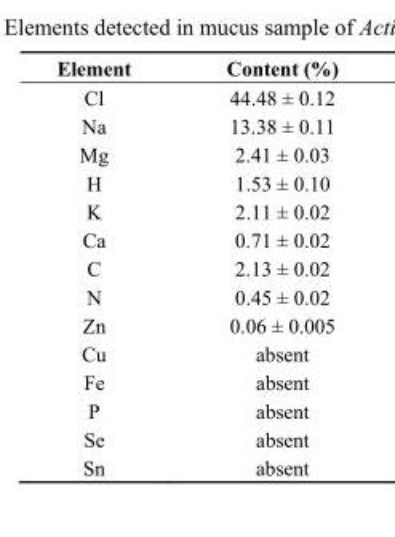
<table><thead><tr><td>Element</td><td>Content (%)</td></tr></thead><tbody><tr><td>Cl</td><td>44.48 ± 0.12</td></tr><tr><td>Na</td><td>13.38 ± 0.11</td></tr><tr><td>Mg</td><td>2.41 ± 0.03</td></tr><tr><td>H</td><td>1.53 ± 0.10</td></tr><tr><td>K</td><td>2.11 ± 0.02</td></tr><tr><td>Ca</td><td>0.71 ± 0.02</td></tr><tr><td>C</td><td>2.13 ± 0.02</td></tr><tr><td>N</td><td>0.45 ± 0.02</td></tr><tr><td>Zn</td><td>0.06 ± 0.005</td></tr><tr><td>Cu</td><td>absent</td></tr><tr><td>Fe</td><td>absent</td></tr><tr><td>P</td><td>absent</td></tr><tr><td>Se</td><td>absent</td></tr><tr><td>Sn</td><td>absent</td></tr></tbody></table>